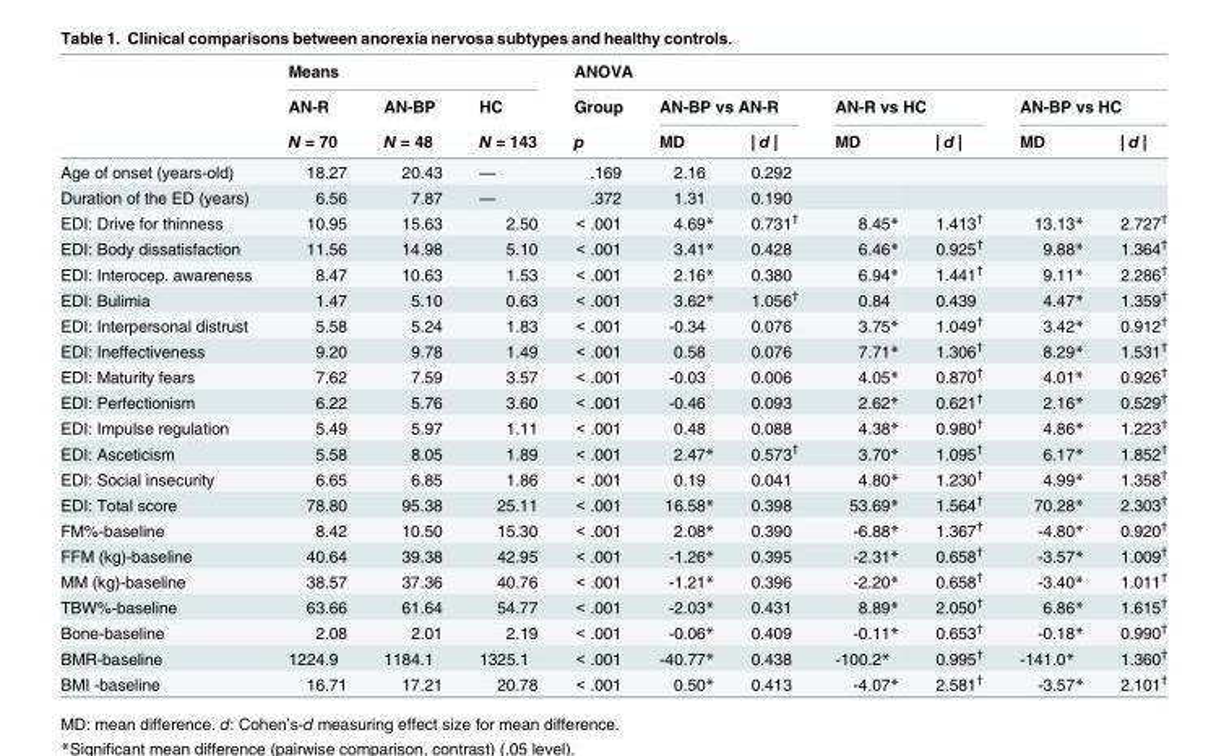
<table><thead><tr><td rowspan="3"></td><td colspan="3">Means</td><td colspan="7">ANOVA</td></tr><tr><td rowspan="2">AN-R N = 70</td><td rowspan="2">AN-BP N = 48</td><td rowspan="2">HC N = 143</td><td rowspan="2">Group p</td><td colspan="2">AN-BP vs AN-R</td><td colspan="2">AN-R vs HC</td><td colspan="2">AN-BP vs HC</td></tr><tr><td>MD</td><td>| d |</td><td>MD</td><td>| d |</td><td>MD</td><td>| d |</td></tr></thead><tbody><tr><td>Age of onset (years-old)</td><td>18.27</td><td>20.43</td><td>—</td><td>.169</td><td>2.16</td><td>0.292</td><td></td><td></td><td></td><td></td></tr><tr><td>Duration of the ED (years)</td><td>6.56</td><td>7.87</td><td>—</td><td>.372</td><td>1.31</td><td>0.190</td><td></td><td></td><td></td><td></td></tr><tr><td>EDI: Drive for thinness</td><td>10.95</td><td>15.63</td><td>2.50</td><td>&lt; .001</td><td>4.69*</td><td>0.731<sup>†</sup></td><td>8.45*</td><td>1.413<sup>†</sup></td><td>13.13*</td><td>2.727<sup>†</sup></td></tr><tr><td>EDI: Body dissatisfaction</td><td>11.56</td><td>14.98</td><td>5.10</td><td>&lt; .001</td><td>3.41*</td><td>0.428</td><td>6.46*</td><td>0.925<sup>†</sup></td><td>9.88*</td><td>1.364<sup>†</sup></td></tr><tr><td>EDI: Interocep. awareness</td><td>8.47</td><td>10.63</td><td>1.53</td><td>&lt; .001</td><td>2.16*</td><td>0.380</td><td>6.94*</td><td>1.441<sup>†</sup></td><td>9.11*</td><td>2.286<sup>†</sup></td></tr><tr><td>EDI: Bulimia</td><td>1.47</td><td>5.10</td><td>0.63</td><td>&lt; .001</td><td>3.62*</td><td>1.056<sup>†</sup></td><td>0.84</td><td>0.439</td><td>4.47*</td><td>1.359<sup>†</sup></td></tr><tr><td>EDI: Interpersonal distrust</td><td>5.58</td><td>5.24</td><td>1.83</td><td>&lt; .001</td><td>-0.34</td><td>0.076</td><td>3.75*</td><td>1.049<sup>†</sup></td><td>3.42*</td><td>0.912<sup>†</sup></td></tr><tr><td>EDI: Ineffectiveness</td><td>9.20</td><td>9.78</td><td>1.49</td><td>&lt; .001</td><td>0.58</td><td>0.076</td><td>7.71*</td><td>1.306<sup>†</sup></td><td>8.29*</td><td>1.531<sup>†</sup></td></tr><tr><td>EDI: Maturity fears</td><td>7.62</td><td>7.59</td><td>3.57</td><td>&lt; .001</td><td>-0.03</td><td>0.006</td><td>4.05*</td><td>0.870<sup>†</sup></td><td>4.01*</td><td>0.926<sup>†</sup></td></tr><tr><td>EDI: Perfectionism</td><td>6.22</td><td>5.76</td><td>3.60</td><td>&lt; .001</td><td>-0.46</td><td>0.093</td><td>2.62*</td><td>0.621<sup>†</sup></td><td>2.16*</td><td>0.529<sup>†</sup></td></tr><tr><td>EDI: Impulse regulation</td><td>5.49</td><td>5.97</td><td>1.11</td><td>&lt; .001</td><td>0.48</td><td>0.088</td><td>4.38*</td><td>0.980<sup>†</sup></td><td>4.86*</td><td>1.223<sup>†</sup></td></tr><tr><td>EDI: Asceticism</td><td>5.58</td><td>8.05</td><td>1.89</td><td>&lt; .001</td><td>2.47*</td><td>0.573<sup>†</sup></td><td>3.70*</td><td>1.095<sup>†</sup></td><td>6.17*</td><td>1.852<sup>†</sup></td></tr><tr><td>EDI: Social insecurity</td><td>6.65</td><td>6.85</td><td>1.86</td><td>&lt; .001</td><td>0.19</td><td>0.041</td><td>4.80*</td><td>1.230<sup>†</sup></td><td>4.99*</td><td>1.358<sup>†</sup></td></tr><tr><td>EDI: Total score</td><td>78.80</td><td>95.38</td><td>25.11</td><td>&lt; .001</td><td>16.58*</td><td>0.398</td><td>53.69*</td><td>1.564<sup>†</sup></td><td>70.28*</td><td>2.303<sup>†</sup></td></tr><tr><td>FM%-baseline</td><td>8.42</td><td>10.50</td><td>15.30</td><td>&lt; .001</td><td>2.08*</td><td>0.390</td><td>-6.88*</td><td>1.367<sup>†</sup></td><td>-4.80*</td><td>0.920<sup>†</sup></td></tr><tr><td>FFM (kg)-baseline</td><td>40.64</td><td>39.38</td><td>42.95</td><td>&lt; .001</td><td>-1.26*</td><td>0.395</td><td>-2.31*</td><td>0.658<sup>†</sup></td><td>-3.57*</td><td>1.009<sup>†</sup></td></tr><tr><td>MM (kg)-baseline</td><td>38.57</td><td>37.36</td><td>40.76</td><td>&lt; .001</td><td>-1.21*</td><td>0.396</td><td>-2.20*</td><td>0.658<sup>†</sup></td><td>-3.40*</td><td>1.011<sup>†</sup></td></tr><tr><td>TBW%-baseline</td><td>63.66</td><td>61.64</td><td>54.77</td><td>&lt; .001</td><td>-2.03*</td><td>0.431</td><td>8.89*</td><td>2.050<sup>†</sup></td><td>6.86*</td><td>1.615<sup>†</sup></td></tr><tr><td>Bone-baseline</td><td>2.08</td><td>2.01</td><td>2.19</td><td>&lt; .001</td><td>-0.06*</td><td>0.409</td><td>-0.11*</td><td>0.653<sup>†</sup></td><td>-0.18*</td><td>0.990<sup>†</sup></td></tr><tr><td>BMR-baseline</td><td>1224.9</td><td>1184.1</td><td>1325.1</td><td>&lt; .001</td><td>-40.77*</td><td>0.438</td><td>-100.2*</td><td>0.995<sup>†</sup></td><td>-141.0*</td><td>1.360<sup>†</sup></td></tr><tr><td>BMI -baseline</td><td>16.71</td><td>17.21</td><td>20.78</td><td>&lt; .001</td><td>0.50*</td><td>0.413</td><td>-4.07*</td><td>2.581<sup>†</sup></td><td>-3.57*</td><td>2.101<sup>†</sup></td></tr></tbody></table>